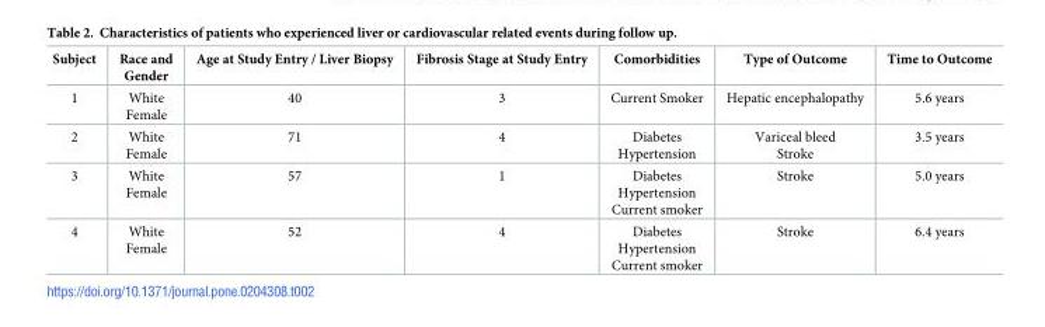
<table><thead><tr><td>Subject</td><td>Race and Gender</td><td>Age at Study Entry / Liver Biopsy</td><td>Fibrosis Stage at Study Entry</td><td>Comorbidities</td><td>Type of Outcome</td><td>Time to Outcome</td></tr></thead><tbody><tr><td>1</td><td>White Female</td><td>40</td><td>3</td><td>Current Smoker</td><td>Hepatic encephalopathy</td><td>5.6 years</td></tr><tr><td>2</td><td>White Female</td><td>71</td><td>4</td><td>Diabetes Hypertension</td><td>Variceal bleed Stroke</td><td>3.5 years</td></tr><tr><td>3</td><td>White Female</td><td>57</td><td>1</td><td>Diabetes Hypertension Current smoker</td><td>Stroke</td><td>5.0 years</td></tr><tr><td>4</td><td>White Female</td><td>52</td><td>4</td><td>Diabetes Hypertension Current smoker</td><td>Stroke</td><td>6.4 years</td></tr></tbody></table>